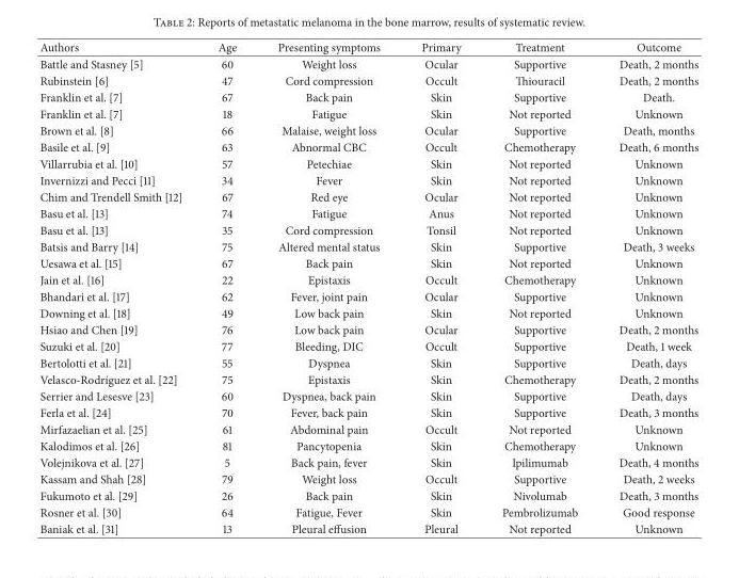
<table><thead><tr><td>Authors</td><td>Age</td><td>Presenting symptoms</td><td>Primary</td><td>Treatment</td><td>Outcome</td></tr></thead><tbody><tr><td>Battle and Stasney [5]</td><td>60</td><td>Weight loss</td><td>Ocular</td><td>Supportive</td><td>Death, 2 months</td></tr><tr><td>Rubinstein [6]</td><td>47</td><td>Cord compression</td><td>Occult</td><td>Thiouracil</td><td>Death, 2 months</td></tr><tr><td>Franklin et al. [7]</td><td>67</td><td>Back pain</td><td>Skin</td><td>Supportive</td><td>Death.</td></tr><tr><td>Franklin et al. [7]</td><td>18</td><td>Fatigue</td><td>Skin</td><td>Not reported</td><td>Unknown</td></tr><tr><td>Brown et al. [8]</td><td>66</td><td>Malaise, weight loss</td><td>Ocular</td><td>Supportive</td><td>Death, months</td></tr><tr><td>Basile et al. [9]</td><td>63</td><td>Abnormal CBC</td><td>Occult</td><td>Chemotherapy</td><td>Death, 6 months</td></tr><tr><td>Villarrubia et al. [10]</td><td>57</td><td>Petechiae</td><td>Skin</td><td>Not reported</td><td>Unknown</td></tr><tr><td>Invernizzi and Pecci [11]</td><td>34</td><td>Fever</td><td>Skin</td><td>Not reported</td><td>Unknown</td></tr><tr><td>Chim and Trendell Smith [12]</td><td>67</td><td>Red eye</td><td>Ocular</td><td>Not reported</td><td>Unknown</td></tr><tr><td>Basu et al. [13]</td><td>74</td><td>Fatigue</td><td>Anus</td><td>Not reported</td><td>Unknown</td></tr><tr><td>Basu et al. [13]</td><td>35</td><td>Cord compression</td><td>Tonsil</td><td>Not reported</td><td>Unknown</td></tr><tr><td>Batsis and Barry [14]</td><td>75</td><td>Altered mental status</td><td>Skin</td><td>Supportive</td><td>Death, 3 weeks</td></tr><tr><td>Uesawa et al. [15]</td><td>67</td><td>Back pain</td><td>Skin</td><td>Not reported</td><td>Unknown</td></tr><tr><td>Jain et al. [16]</td><td>22</td><td>Epistaxis</td><td>Occult</td><td>Chemotherapy</td><td>Unknown</td></tr><tr><td>Bhandari et al. [17]</td><td>62</td><td>Fever, joint pain</td><td>Ocular</td><td>Supportive</td><td>Unknown</td></tr><tr><td>Downing et al. [18]</td><td>49</td><td>Low back pain</td><td>Skin</td><td>Not reported</td><td>Unknown</td></tr><tr><td>Hsiao and Chen [19]</td><td>76</td><td>Low back pain</td><td>Ocular</td><td>Supportive</td><td>Death, 2 months</td></tr><tr><td>Suzuki et al. [20]</td><td>77</td><td>Bleeding, DIC</td><td>Occult</td><td>Supportive</td><td>Death, 1 week</td></tr><tr><td>Bertolotti et al. [21]</td><td>55</td><td>Dyspnea</td><td>Skin</td><td>Supportive</td><td>Death, days</td></tr><tr><td>Velasco-Rodr´ıguez et al. [22]</td><td>75</td><td>Epistaxis</td><td>Skin</td><td>Chemotherapy</td><td>Death, 2 months</td></tr><tr><td>Serrier and Lesesve [23]</td><td>60</td><td>Dyspnea, back pain</td><td>Skin</td><td>Supportive</td><td>Death, days</td></tr><tr><td>Ferla et al. [24]</td><td>70</td><td>Fever, back pain</td><td>Skin</td><td>Supportive</td><td>Death, 3 months</td></tr><tr><td>Mirfazaelian et al. [25]</td><td>61</td><td>Abdominal pain</td><td>Occult</td><td>Not reported</td><td>Unknown</td></tr><tr><td>Kalodimos et al. [26]</td><td>81</td><td>Pancytopenia</td><td>Skin</td><td>Chemotherapy</td><td>Unknown</td></tr><tr><td>Volejnikova et al. [27]</td><td>5</td><td>Back pain, fever</td><td>Skin</td><td>Ipilimumab</td><td>Death, 4 months</td></tr><tr><td>Kassam and Shah [28]</td><td>79</td><td>Weight loss</td><td>Occult</td><td>Supportive</td><td>Death, 2 weeks</td></tr><tr><td>Fukumoto et al. [29]</td><td>26</td><td>Back pain</td><td>Skin</td><td>Nivolumab</td><td>Death, 3 months</td></tr><tr><td>Rosner et al. [30]</td><td>64</td><td>Fatigue, Fever</td><td>Skin</td><td>Pembrolizumab</td><td>Good response</td></tr><tr><td>Baniak et al. [31]</td><td>13</td><td>Pleural effusion</td><td>Pleural</td><td>Not reported</td><td>Unknown</td></tr></tbody></table>